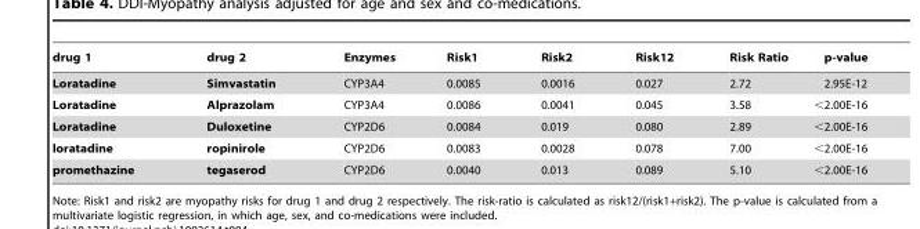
<table><thead><tr><td>drug 1</td><td>drug 2</td><td>Enzymes</td><td>Risk1</td><td>Risk2</td><td>Risk12</td><td>Risk Ratio</td><td>p-value</td></tr></thead><tbody><tr><td>Loratadine</td><td>Simvastatin</td><td>CYP3A4</td><td>0.0085</td><td>0.0016</td><td>0.027</td><td>2.72</td><td>2.95E-12</td></tr><tr><td>Loratadine</td><td>Alprazolam</td><td>CYP3A4</td><td>0.0086</td><td>0.0041</td><td>0.045</td><td>3.58</td><td>&lt;2.00E-16</td></tr><tr><td>Loratadine</td><td>Duloxetine</td><td>CYP2D6</td><td>0.0084</td><td>0.019</td><td>0.080</td><td>2.89</td><td>&lt;2.00E-16</td></tr><tr><td>loratadine</td><td>ropinirole</td><td>CYP2D6</td><td>0.0083</td><td>0.0028</td><td>0.078</td><td>7.00</td><td>&lt;2.00E-16</td></tr><tr><td>promethazine</td><td>tegaserod</td><td>CYP2D6</td><td>0.0040</td><td>0.013</td><td>0.089</td><td>5.10</td><td>&lt;2.00E-16</td></tr></tbody></table>